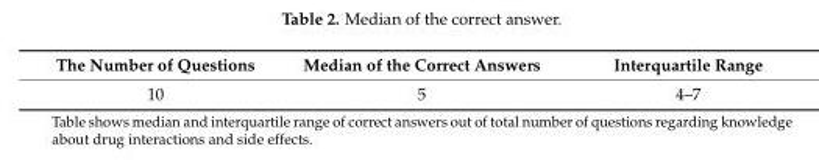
<table><thead><tr><td>The Number of Questions</td><td>Median of the Correct Answers</td><td>Interquartile Range</td></tr></thead><tbody><tr><td>10</td><td>5</td><td>4–7</td></tr></tbody></table>